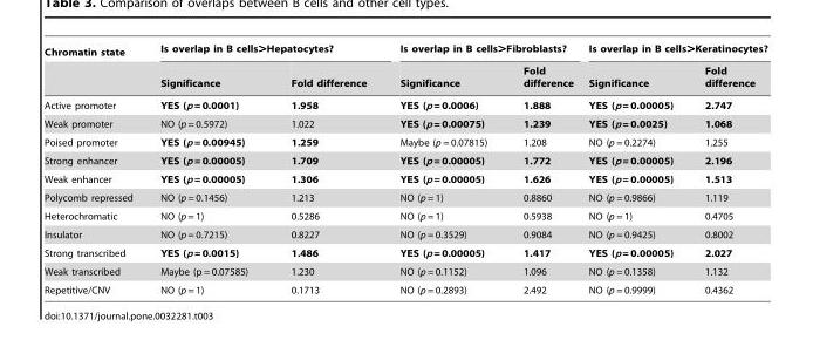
<table><thead><tr><td rowspan="2">Chromatin state</td><td colspan="2">Is overlap in B cells&gt;Hepatocytes?</td><td colspan="2">Is overlap in B cells&gt;Fibroblasts?</td><td colspan="2">Is overlap in B cells&gt;Keratinocytes?</td></tr><tr><td>Significance</td><td>Fold difference</td><td>Significance</td><td>Fold difference</td><td>Significance</td><td>Fold difference</td></tr></thead><tbody><tr><td>Active promoter</td><td>YES (p = 0.0001)</td><td>1.958</td><td>YES (p = 0.0006)</td><td>1.888</td><td>YES (p = 0.00005)</td><td>2.747</td></tr><tr><td>Weak promoter</td><td>NO (p = 0.5972)</td><td>1.022</td><td>YES (p = 0.00075)</td><td>1.239</td><td>YES (p = 0.0025)</td><td>1.068</td></tr><tr><td>Poised promoter</td><td>YES (p = 0.00945)</td><td>1.259</td><td>Maybe (p = 0.07815)</td><td>1.208</td><td>NO (p = 0.2274)</td><td>1.255</td></tr><tr><td>Strong enhancer</td><td>YES (p = 0.00005)</td><td>1.709</td><td>YES (p = 0.00005)</td><td>1.772</td><td>YES (p = 0.00005)</td><td>2.196</td></tr><tr><td>Weak enhancer</td><td>YES (p = 0.00005)</td><td>1.306</td><td>YES (p = 0.00005)</td><td>1.626</td><td>YES (p = 0.00005)</td><td>1.513</td></tr><tr><td>Polycomb repressed</td><td>NO (p = 0.1456)</td><td>1.213</td><td>NO (p = 1)</td><td>0.8860</td><td>NO (p = 0.9866)</td><td>1.119</td></tr><tr><td>Heterochromatic</td><td>NO (p = 1)</td><td>0.5286</td><td>NO (p = 1)</td><td>0.5938</td><td>NO (p = 1)</td><td>0.4705</td></tr><tr><td>Insulator</td><td>NO (p = 0.7215)</td><td>0.8227</td><td>NO (p = 0.3529)</td><td>0.9084</td><td>NO (p = 0.9425)</td><td>0.8002</td></tr><tr><td>Strong transcribed</td><td>YES (p = 0.0015)</td><td>1.486</td><td>YES (p = 0.00005)</td><td>1.417</td><td>YES (p = 0.00005)</td><td>2.027</td></tr><tr><td>Weak transcribed</td><td>Maybe (p = 0.07585)</td><td>1.230</td><td>NO (p = 0.1152)</td><td>1.096</td><td>NO (p = 0.1358)</td><td>1.132</td></tr><tr><td>Repetitive/CNV</td><td>NO (p = 1)</td><td>0.1713</td><td>NO (p = 0.2893)</td><td>2.492</td><td>NO (p = 0.9999)</td><td>0.4362</td></tr></tbody></table>